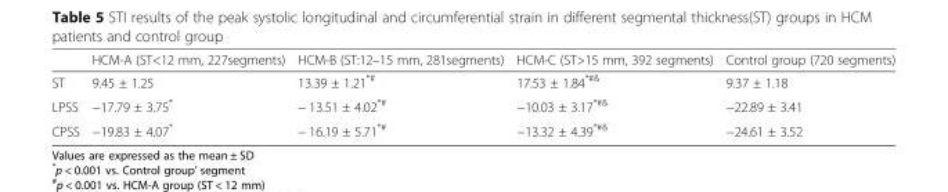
<table><thead><tr><td></td><td>HCM-A (ST&lt;12 mm, 227segments)</td><td>HCM-B (ST:12–15 mm, 281segments)</td><td>HCM-C (ST&gt;15 mm, 392 segments)</td><td>Control group (720 segments)</td></tr></thead><tbody><tr><td>ST</td><td>9.45 ± 1.25</td><td>13.39 ± 1.21<sup>*#</sup></td><td>17.53 ± 1.84<sup>*#&amp;</sup></td><td>9.37 ± 1.18</td></tr><tr><td>LPSS</td><td>−17.79 ± 3.75*</td><td>− 13.51 ± 4.02<sup>*#</sup></td><td>−10.03 ± 3.17<sup>*#&amp;</sup></td><td>−22.89 ± 3.41</td></tr><tr><td>CPSS</td><td>−19.83 ± 4.07*</td><td>− 16.19 ± 5.71<sup>*#</sup></td><td>−13.32 ± 4.39<sup>*#&amp;</sup></td><td>−24.61 ± 3.52</td></tr></tbody></table>